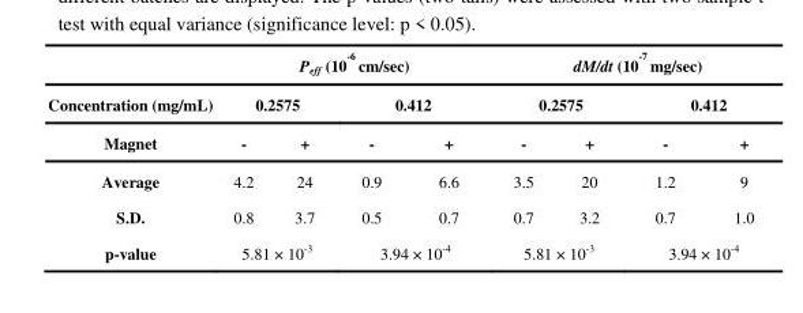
<table><thead><tr><td rowspan="3">Concentration (mg/mL) Magnet</td><td colspan="4">P<sub>eff</sub> (10 <sup>-6</sup> cm/sec)</td><td colspan="4">dM/dt (10 <sup>-7</sup> mg/sec)</td></tr><tr><td colspan="2">0.2575</td><td colspan="2">0.412</td><td colspan="2">0.2575</td><td colspan="2">0.412</td></tr><tr><td>-</td><td>+</td><td>-</td><td>+</td><td>-</td><td>+</td><td>-</td><td>+</td></tr></thead><tbody><tr><td>Average</td><td>4.2</td><td>24</td><td>0.9</td><td>6.6</td><td>3.5</td><td>20</td><td>1.2</td><td>9</td></tr><tr><td>S.D.</td><td>0.8</td><td>3.7</td><td>0.5</td><td>0.7</td><td>0.7</td><td>3.2</td><td>0.7</td><td>1.0</td></tr><tr><td>p-value</td><td colspan="2">5.81 × 10<sup>-3</sup></td><td colspan="2">3.94 × 10<sup>-4</sup></td><td colspan="2">5.81 × 10<sup>-3</sup></td><td colspan="2">3.94 × 10<sup>-4</sup></td></tr></tbody></table>